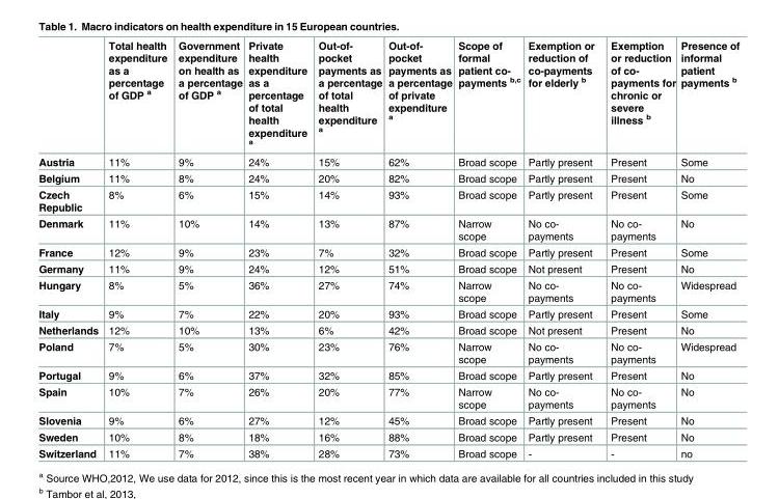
<table><thead><tr><td></td><td>Total health expenditure as a percentage of GDP <sup>a</sup></td><td>Government expenditure on health as a percentage of GDP <sup>a</sup></td><td>Private health expenditure as a percentage of total health expenditure <sup>a</sup></td><td>Out-of- pocket payments as a percentage of total health expenditure <sup>a</sup></td><td>Out-of- pocket payments as a percentage of private expenditure <sup>a</sup></td><td>Scope of formal patient co- payments <sup>b,c</sup></td><td>Exemption or reduction of co-payments for elderly <sup>b</sup></td><td>Exemption or reduction of co- payments for chronic or severe illness <sup>b</sup></td><td>Presence of informal patient payments <sup>b</sup></td></tr></thead><tbody><tr><td>Austria</td><td>11%</td><td>9%</td><td>24%</td><td>15%</td><td>62%</td><td>Broad scope</td><td>Partly present</td><td>Present</td><td>Some</td></tr><tr><td>Belgium</td><td>11%</td><td>8%</td><td>24%</td><td>20%</td><td>82%</td><td>Broad scope</td><td>Partly present</td><td>Present</td><td>No</td></tr><tr><td>Czech Republic</td><td>8%</td><td>6%</td><td>15%</td><td>14%</td><td>93%</td><td>Broad scope</td><td>Partly present</td><td>Present</td><td>Some</td></tr><tr><td>Denmark</td><td>11%</td><td>10%</td><td>14%</td><td>13%</td><td>87%</td><td>Narrow scope</td><td>No co- payments</td><td>No co- payments</td><td>No</td></tr><tr><td>France</td><td>12%</td><td>9%</td><td>23%</td><td>7%</td><td>32%</td><td>Broad scope</td><td>Partly present</td><td>Present</td><td>Some</td></tr><tr><td>Germany</td><td>11%</td><td>9%</td><td>24%</td><td>12%</td><td>51%</td><td>Broad scope</td><td>Not present</td><td>Present</td><td>No</td></tr><tr><td>Hungary</td><td>8%</td><td>5%</td><td>36%</td><td>27%</td><td>74%</td><td>Narrow scope</td><td>No co- payments</td><td>No co- payments</td><td>Widespread</td></tr><tr><td>Italy</td><td>9%</td><td>7%</td><td>22%</td><td>20%</td><td>93%</td><td>Broad scope</td><td>Partly present</td><td>Present</td><td>Some</td></tr><tr><td>Netherlands</td><td>12%</td><td>10%</td><td>13%</td><td>6%</td><td>42%</td><td>Broad scope</td><td>Not present</td><td>Present</td><td>No</td></tr><tr><td>Poland</td><td>7%</td><td>5%</td><td>30%</td><td>23%</td><td>76%</td><td>Narrow scope</td><td>No co- payments</td><td>No co- payments</td><td>Widespread</td></tr><tr><td>Portugal</td><td>9%</td><td>6%</td><td>37%</td><td>32%</td><td>85%</td><td>Broad scope</td><td>Partly present</td><td>Present</td><td>No</td></tr><tr><td>Spain</td><td>10%</td><td>7%</td><td>26%</td><td>20%</td><td>77%</td><td>Narrow scope</td><td>No co- payments</td><td>No co- payments</td><td>No</td></tr><tr><td>Slovenia</td><td>9%</td><td>6%</td><td>27%</td><td>12%</td><td>45%</td><td>Broad scope</td><td>Partly present</td><td>Present</td><td>No</td></tr><tr><td>Sweden</td><td>10%</td><td>8%</td><td>18%</td><td>16%</td><td>88%</td><td>Broad scope</td><td>Partly present</td><td>Present</td><td>No</td></tr><tr><td>Switzerland</td><td>11%</td><td>7%</td><td>38%</td><td>28%</td><td>73%</td><td>Broad scope</td><td>-</td><td>-</td><td>no</td></tr></tbody></table>